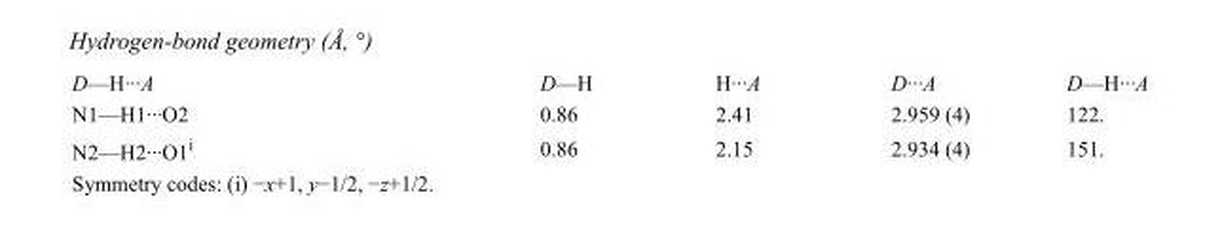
<table><tbody><tr><td>D—H···A</td><td>D—H</td><td>H···A</td><td>D···A</td><td>D—H···A</td></tr><tr><td>N1—H1···O2</td><td>0.86</td><td>2.41</td><td>2.959 (4)</td><td>122.</td></tr><tr><td>N2—H2···O1<sup>i</sup></td><td>0.86</td><td>2.15</td><td>2.934 (4)</td><td>151.</td></tr></tbody></table>